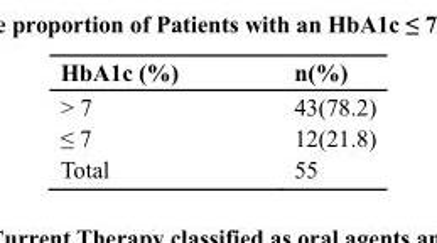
<table><thead><tr><td>HbA1c (%)</td><td>n(%)</td></tr></thead><tbody><tr><td>&gt; 7</td><td>43(78.2)</td></tr><tr><td>≤ 7</td><td>12(21.8)</td></tr><tr><td>Total</td><td>55</td></tr></tbody></table>